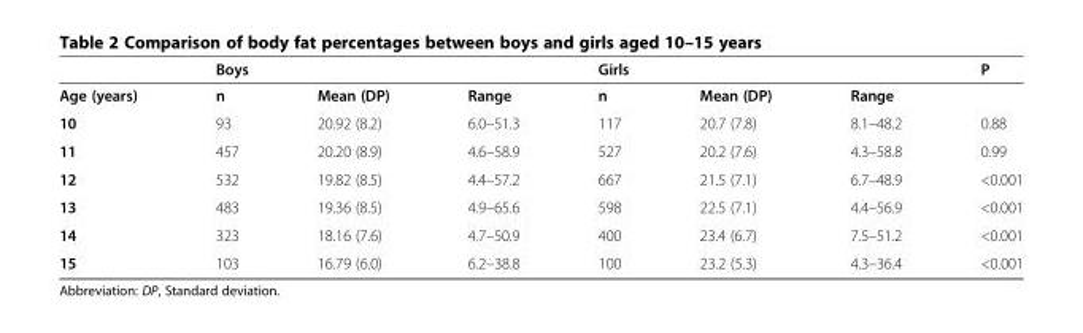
<table><thead><tr><td rowspan="2">Age (years)</td><td colspan="3">Boys</td><td colspan="3">Girls</td><td rowspan="2">P</td></tr><tr><td>n</td><td>Mean (DP)</td><td>Range</td><td>n</td><td>Mean (DP)</td><td>Range</td></tr></thead><tbody><tr><td>10</td><td>93</td><td>20.92 (8.2)</td><td>6.0–51.3</td><td>117</td><td>20.7 (7.8)</td><td>8.1–48.2</td><td>0.88</td></tr><tr><td>11</td><td>457</td><td>20.20 (8.9)</td><td>4.6–58.9</td><td>527</td><td>20.2 (7.6)</td><td>4.3–58.8</td><td>0.99</td></tr><tr><td>12</td><td>532</td><td>19.82 (8.5)</td><td>4.4–57.2</td><td>667</td><td>21.5 (7.1)</td><td>6.7–48.9</td><td>&lt;0.001</td></tr><tr><td>13</td><td>483</td><td>19.36 (8.5)</td><td>4.9–65.6</td><td>598</td><td>22.5 (7.1)</td><td>4.4–56.9</td><td>&lt;0.001</td></tr><tr><td>14</td><td>323</td><td>18.16 (7.6)</td><td>4.7–50.9</td><td>400</td><td>23.4 (6.7)</td><td>7.5–51.2</td><td>&lt;0.001</td></tr><tr><td>15</td><td>103</td><td>16.79 (6.0)</td><td>6.2–38.8</td><td>100</td><td>23.2 (5.3)</td><td>4.3–36.4</td><td>&lt;0.001</td></tr></tbody></table>